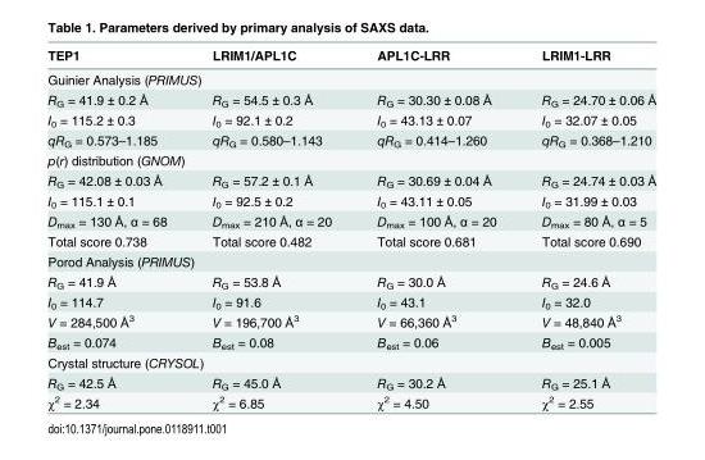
<table><thead><tr><td>TEP1</td><td>LRIM1/APL1C</td><td>APL1C-LRR</td><td>LRIM1-LRR</td></tr></thead><tbody><tr><td colspan="4">Guinier Analysis (PRIMUS)</td></tr><tr><td>R<sub>G</sub> = 41.9 ± 0.2 Å</td><td>R<sub>G</sub> = 54.5 ± 0.3 Å</td><td>R<sub>G</sub> = 30.30 ± 0.08 Å</td><td>R<sub>G</sub> = 24.70 ± 0.06 Å</td></tr><tr><td>I<sub>0</sub> = 115.2 ± 0.3</td><td>I<sub>0</sub> = 92.1 ± 0.2</td><td>I<sub>0</sub> = 43.13 ± 0.07</td><td>I<sub>0</sub> = 32.07 ± 0.05</td></tr><tr><td>qR<sub>G</sub> = 0.573–1.185</td><td>qR<sub>G</sub> = 0.580–1.143</td><td>qR<sub>G</sub> = 0.414–1.260</td><td>qR<sub>G</sub> = 0.368–1.210</td></tr><tr><td colspan="4">p(r) distribution (GNOM)</td></tr><tr><td>R<sub>G</sub> = 42.08 ± 0.03 Å</td><td>R<sub>G</sub> = 57.2 ± 0.1 Å</td><td>R<sub>G</sub> = 30.69 ± 0.04 Å</td><td>R<sub>G</sub> = 24.74 ± 0.03 Å</td></tr><tr><td>I<sub>0</sub> = 115.1 ± 0.1</td><td>I<sub>0</sub> = 92.5 ± 0.2</td><td>I<sub>0</sub> = 43.11 ± 0.05</td><td>I<sub>0</sub> = 31.99 ± 0.03</td></tr><tr><td>D<sub>max</sub> = 130 Å, α = 68</td><td>D<sub>max</sub> = 210 Å, α = 20</td><td>D<sub>max</sub> = 100 Å, α = 20</td><td>D<sub>max</sub> = 80 Å, α = 5</td></tr><tr><td>Total score 0.738</td><td>Total score 0.482</td><td>Total score 0.681</td><td>Total score 0.690</td></tr><tr><td colspan="4">Porod Analysis (PRIMUS)</td></tr><tr><td>R<sub>G</sub> = 41.9 Å</td><td>R<sub>G</sub> = 53.8 Å</td><td>R<sub>G</sub> = 30.0 Å</td><td>R<sub>G</sub> = 24.6 Å</td></tr><tr><td>I<sub>0</sub> = 114.7</td><td>I<sub>0</sub> = 91.6</td><td>I<sub>0</sub> = 43.1</td><td>I<sub>0</sub> = 32.0</td></tr><tr><td>V = 284,500 Å<sup>3</sup></td><td>V = 196,700 Å<sup>3</sup></td><td>V = 66,360 Å<sup>3</sup></td><td>V = 48,840 Å<sup>3</sup></td></tr><tr><td>B<sub>est</sub> = 0.074</td><td>B<sub>est</sub> = 0.08</td><td>B<sub>est</sub> = 0.06</td><td>B<sub>est</sub> = 0.005</td></tr><tr><td colspan="4">Crystal structure (CRYSOL)</td></tr><tr><td>R<sub>G</sub> = 42.5 Å</td><td>R<sub>G</sub> = 45.0 Å</td><td>R<sub>G</sub> = 30.2 Å</td><td>R<sub>G</sub> = 25.1 Å</td></tr><tr><td>χ<sup>2</sup> = 2.34</td><td>χ<sup>2</sup> = 6.85</td><td>χ<sup>2</sup> = 4.50</td><td>χ<sup>2</sup> = 2.55</td></tr></tbody></table>